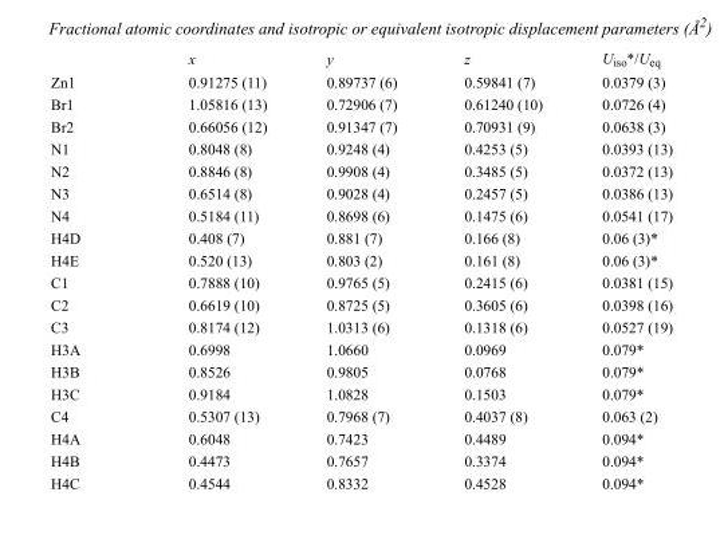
<table><thead><tr><td></td><td>x</td><td>y</td><td>z</td><td>U<sub>iso</sub>*/U<sub>eq</sub></td></tr></thead><tbody><tr><td>Zn1</td><td>0.91275 (11)</td><td>0.89737 (6)</td><td>0.59841 (7)</td><td>0.0379 (3)</td></tr><tr><td>Br1</td><td>1.05816 (13)</td><td>0.72906 (7)</td><td>0.61240 (10)</td><td>0.0726 (4)</td></tr><tr><td>Br2</td><td>0.66056 (12)</td><td>0.91347 (7)</td><td>0.70931 (9)</td><td>0.0638 (3)</td></tr><tr><td>N1</td><td>0.8048 (8)</td><td>0.9248 (4)</td><td>0.4253 (5)</td><td>0.0393 (13)</td></tr><tr><td>N2</td><td>0.8846 (8)</td><td>0.9908 (4)</td><td>0.3485 (5)</td><td>0.0372 (13)</td></tr><tr><td>N3</td><td>0.6514 (8)</td><td>0.9028 (4)</td><td>0.2457 (5)</td><td>0.0386 (13)</td></tr><tr><td>N4</td><td>0.5184 (11)</td><td>0.8698 (6)</td><td>0.1475 (6)</td><td>0.0541 (17)</td></tr><tr><td>H4D</td><td>0.408 (7)</td><td>0.881 (7)</td><td>0.166 (8)</td><td>0.06 (3)*</td></tr><tr><td>H4E</td><td>0.520 (13)</td><td>0.803 (2)</td><td>0.161 (8)</td><td>0.06 (3)*</td></tr><tr><td>C1</td><td>0.7888 (10)</td><td>0.9765 (5)</td><td>0.2415 (6)</td><td>0.0381 (15)</td></tr><tr><td>C2</td><td>0.6619 (10)</td><td>0.8725 (5)</td><td>0.3605 (6)</td><td>0.0398 (16)</td></tr><tr><td>C3</td><td>0.8174 (12)</td><td>1.0313 (6)</td><td>0.1318 (6)</td><td>0.0527 (19)</td></tr><tr><td>H3A</td><td>0.6998</td><td>1.0660</td><td>0.0969</td><td>0.079*</td></tr><tr><td>H3B</td><td>0.8526</td><td>0.9805</td><td>0.0768</td><td>0.079*</td></tr><tr><td>H3C</td><td>0.9184</td><td>1.0828</td><td>0.1503</td><td>0.079*</td></tr><tr><td>C4</td><td>0.5307 (13)</td><td>0.7968 (7)</td><td>0.4037 (8)</td><td>0.063 (2)</td></tr><tr><td>H4A</td><td>0.6048</td><td>0.7423</td><td>0.4489</td><td>0.094*</td></tr><tr><td>H4B</td><td>0.4473</td><td>0.7657</td><td>0.3374</td><td>0.094*</td></tr><tr><td>H4C</td><td>0.4544</td><td>0.8332</td><td>0.4528</td><td>0.094*</td></tr></tbody></table>